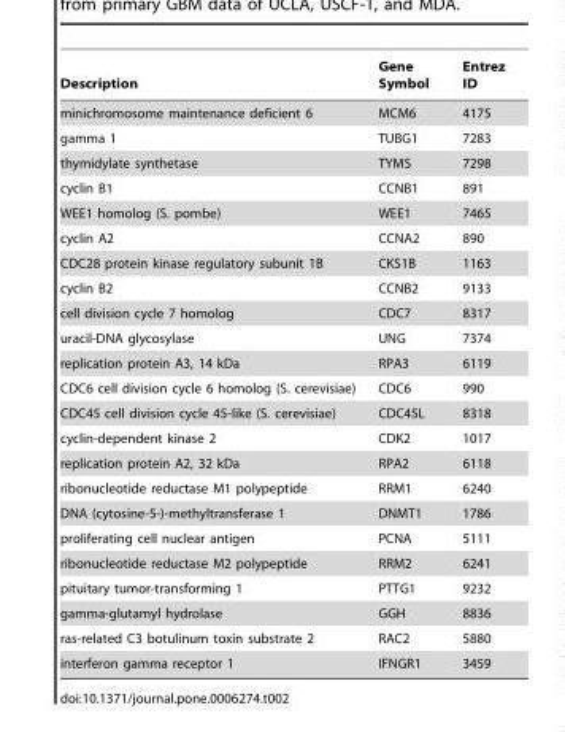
<table><thead><tr><td>Description</td><td>Gene Symbol</td><td>Entrez ID</td></tr></thead><tbody><tr><td>minichromosome maintenance deficient 6</td><td>MCM6</td><td>4175</td></tr><tr><td>gamma 1</td><td>TUBG1</td><td>7283</td></tr><tr><td>thymidylate synthetase</td><td>TYMS</td><td>7298</td></tr><tr><td>cyclin B1</td><td>CCNB1</td><td>891</td></tr><tr><td>WEE1 homolog (S. pombe)</td><td>WEE1</td><td>7465</td></tr><tr><td>cyclin A2</td><td>CCNA2</td><td>890</td></tr><tr><td>CDC28 protein kinase regulatory subunit 1B</td><td>CKS1B</td><td>1163</td></tr><tr><td>cyclin B2</td><td>CCNB2</td><td>9133</td></tr><tr><td>cell division cycle 7 homolog</td><td>CDC7</td><td>8317</td></tr><tr><td>uracil-DNA glycosylase</td><td>UNG</td><td>7374</td></tr><tr><td>replication protein A3, 14 kDa</td><td>RPA3</td><td>6119</td></tr><tr><td>CDC6 cell division cycle 6 homolog (S. cerevisiae)</td><td>CDC6</td><td>990</td></tr><tr><td>CDC45 cell division cycle 45-like (S. cerevisiae)</td><td>CDC45L</td><td>8318</td></tr><tr><td>cyclin-dependent kinase 2</td><td>CDK2</td><td>1017</td></tr><tr><td>replication protein A2, 32 kDa</td><td>RPA2</td><td>6118</td></tr><tr><td>ribonucleotide reductase M1 polypeptide</td><td>RRM1</td><td>6240</td></tr><tr><td>DNA (cytosine-5-)-methyltransferase 1</td><td>DNMT1</td><td>1786</td></tr><tr><td>proliferating cell nuclear antigen</td><td>PCNA</td><td>5111</td></tr><tr><td>ribonucleotide reductase M2 polypeptide</td><td>RRM2</td><td>6241</td></tr><tr><td>pituitary tumor-transforming 1</td><td>PTTG1</td><td>9232</td></tr><tr><td>gamma-glutamyl hydrolase</td><td>GGH</td><td>8836</td></tr><tr><td>ras-related C3 botulinum toxin substrate 2</td><td>RAC2</td><td>5880</td></tr><tr><td>interferon gamma receptor 1</td><td>IFNGR1</td><td>3459</td></tr></tbody></table>